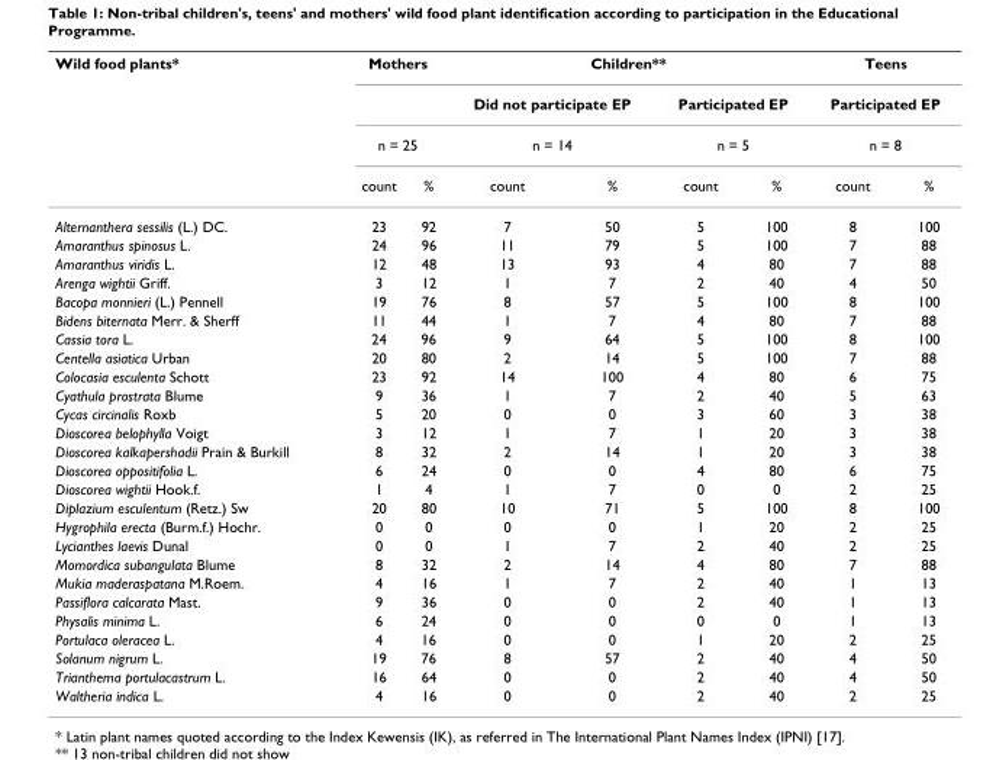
<table><thead><tr><td rowspan="4">Wild food plants*</td><td colspan="2">Mothers</td><td colspan="4">Children**</td><td rowspan="3" colspan="2">Teens Participated EP n = 8</td></tr><tr><td></td><td></td><td rowspan="2" colspan="2">Did not participate EP n = 14</td><td rowspan="2" colspan="2">Participated EP n = 5</td></tr><tr><td colspan="2">n = 25</td></tr><tr><td>count</td><td>%</td><td>count</td><td>%</td><td>count</td><td>%</td><td>count</td><td>%</td></tr></thead><tbody><tr><td>Alternanthera sessilis (L.) DC.</td><td>23</td><td>92</td><td>7</td><td>50</td><td>5</td><td>100</td><td>8</td><td>100</td></tr><tr><td>Amaranthus spinosus L.</td><td>24</td><td>96</td><td>11</td><td>79</td><td>5</td><td>100</td><td>7</td><td>88</td></tr><tr><td>Amaranthus viridis L.</td><td>12</td><td>48</td><td>13</td><td>93</td><td>4</td><td>80</td><td>7</td><td>88</td></tr><tr><td>Arenga wightii Griff.</td><td>3</td><td>12</td><td>1</td><td>7</td><td>2</td><td>40</td><td>4</td><td>50</td></tr><tr><td>Bacopa monnieri (L.) Pennell</td><td>19</td><td>76</td><td>8</td><td>57</td><td>5</td><td>100</td><td>8</td><td>100</td></tr><tr><td>Bidens biternata Merr. &amp; Sherff</td><td>11</td><td>44</td><td>1</td><td>7</td><td>4</td><td>80</td><td>7</td><td>88</td></tr><tr><td>Cassia tora L.</td><td>24</td><td>96</td><td>9</td><td>64</td><td>5</td><td>100</td><td>8</td><td>100</td></tr><tr><td>Centella asiatica Urban</td><td>20</td><td>80</td><td>2</td><td>14</td><td>5</td><td>100</td><td>7</td><td>88</td></tr><tr><td>Colocasia esculenta Schott</td><td>23</td><td>92</td><td>14</td><td>100</td><td>4</td><td>80</td><td>6</td><td>75</td></tr><tr><td>Cyathula prostrata Blume</td><td>9</td><td>36</td><td>1</td><td>7</td><td>2</td><td>40</td><td>5</td><td>63</td></tr><tr><td>Cycas circinalis Roxb</td><td>5</td><td>20</td><td>0</td><td>0</td><td>3</td><td>60</td><td>3</td><td>38</td></tr><tr><td>Dioscorea belophylla Voigt</td><td>3</td><td>12</td><td>1</td><td>7</td><td>1</td><td>20</td><td>3</td><td>38</td></tr><tr><td>Dioscorea kalkapershadii Prain &amp; Burkill</td><td>8</td><td>32</td><td>2</td><td>14</td><td>1</td><td>20</td><td>3</td><td>38</td></tr><tr><td>Dioscorea oppositifolia L.</td><td>6</td><td>24</td><td>0</td><td>0</td><td>4</td><td>80</td><td>6</td><td>75</td></tr><tr><td>Dioscorea wightii Hook.f.</td><td>1</td><td>4</td><td>1</td><td>7</td><td>0</td><td>0</td><td>2</td><td>25</td></tr><tr><td>Diplazium esculentum (Retz.) Sw</td><td>20</td><td>80</td><td>10</td><td>71</td><td>5</td><td>100</td><td>8</td><td>100</td></tr><tr><td>Hygrophila erecta (Burm.f.) Hochr.</td><td>0</td><td>0</td><td>0</td><td>0</td><td>1</td><td>20</td><td>2</td><td>25</td></tr><tr><td>Lycianthes laevis Dunal</td><td>0</td><td>0</td><td>1</td><td>7</td><td>2</td><td>40</td><td>2</td><td>25</td></tr><tr><td>Momordica subangulata Blume</td><td>8</td><td>32</td><td>2</td><td>14</td><td>4</td><td>80</td><td>7</td><td>88</td></tr><tr><td>Mukia maderaspatana M.Roem.</td><td>4</td><td>16</td><td>1</td><td>7</td><td>2</td><td>40</td><td>1</td><td>13</td></tr><tr><td>Passiflora calcarata Mast.</td><td>9</td><td>36</td><td>0</td><td>0</td><td>2</td><td>40</td><td>1</td><td>13</td></tr><tr><td>Physalis minima L.</td><td>6</td><td>24</td><td>0</td><td>0</td><td>0</td><td>0</td><td>1</td><td>13</td></tr><tr><td>Portulaca oleracea L.</td><td>4</td><td>16</td><td>0</td><td>0</td><td>1</td><td>20</td><td>2</td><td>25</td></tr><tr><td>Solanum nigrum L.</td><td>19</td><td>76</td><td>8</td><td>57</td><td>2</td><td>40</td><td>4</td><td>50</td></tr><tr><td>Trianthema portulacastrum L.</td><td>16</td><td>64</td><td>0</td><td>0</td><td>2</td><td>40</td><td>4</td><td>50</td></tr><tr><td>Waltheria indica L.</td><td>4</td><td>16</td><td>0</td><td>0</td><td>2</td><td>40</td><td>2</td><td>25</td></tr></tbody></table>